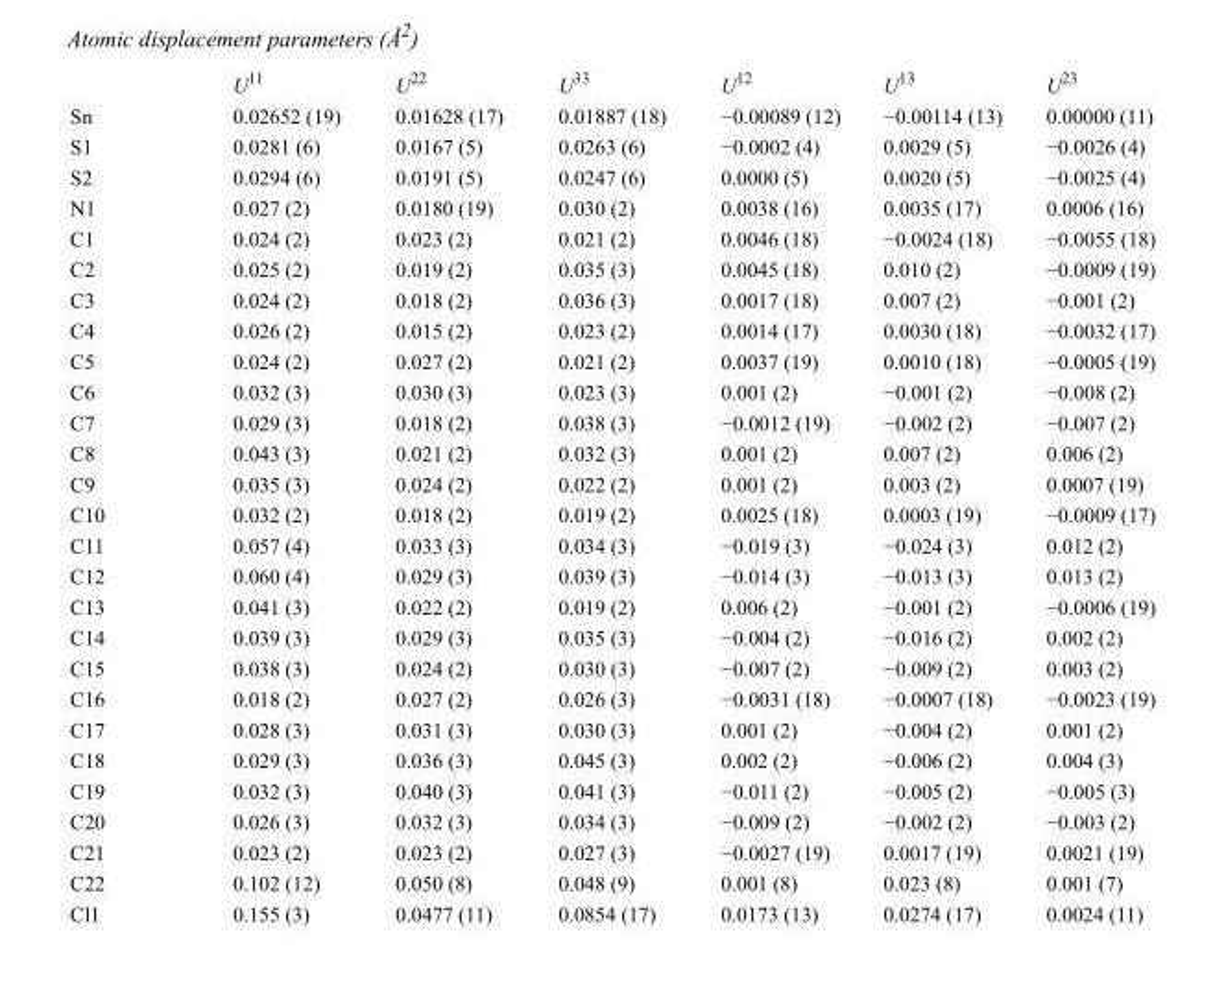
<table><thead><tr><td></td><td>U<sup>11</sup></td><td>U<sup>22</sup></td><td>U<sup>33</sup></td><td>U<sup>12</sup></td><td>U<sup>13</sup></td><td>U<sup>23</sup></td></tr></thead><tbody><tr><td>Sn</td><td>0.02652 (19)</td><td>0.01628 (17)</td><td>0.01887 (18)</td><td>−0.00089 (12)</td><td>−0.00114 (13)</td><td>0.00000 (11)</td></tr><tr><td>S1</td><td>0.0281 (6)</td><td>0.0167 (5)</td><td>0.0263 (6)</td><td>−0.0002 (4)</td><td>0.0029 (5)</td><td>−0.0026 (4)</td></tr><tr><td>S2</td><td>0.0294 (6)</td><td>0.0191 (5)</td><td>0.0247 (6)</td><td>0.0000 (5)</td><td>0.0020 (5)</td><td>−0.0025 (4)</td></tr><tr><td>N1</td><td>0.027 (2)</td><td>0.0180 (19)</td><td>0.030 (2)</td><td>0.0038 (16)</td><td>0.0035 (17)</td><td>0.0006 (16)</td></tr><tr><td>C1</td><td>0.024 (2)</td><td>0.023 (2)</td><td>0.021 (2)</td><td>0.0046 (18)</td><td>−0.0024 (18)</td><td>−0.0055 (18)</td></tr><tr><td>C2</td><td>0.025 (2)</td><td>0.019 (2)</td><td>0.035 (3)</td><td>0.0045 (18)</td><td>0.010 (2)</td><td>−0.0009 (19)</td></tr><tr><td>C3</td><td>0.024 (2)</td><td>0.018 (2)</td><td>0.036 (3)</td><td>0.0017 (18)</td><td>0.007 (2)</td><td>−0.001 (2)</td></tr><tr><td>C4</td><td>0.026 (2)</td><td>0.015 (2)</td><td>0.023 (2)</td><td>0.0014 (17)</td><td>0.0030 (18)</td><td>−0.0032 (17)</td></tr><tr><td>C5</td><td>0.024 (2)</td><td>0.027 (2)</td><td>0.021 (2)</td><td>0.0037 (19)</td><td>0.0010 (18)</td><td>−0.0005 (19)</td></tr><tr><td>C6</td><td>0.032 (3)</td><td>0.030 (3)</td><td>0.023 (3)</td><td>0.001 (2)</td><td>−0.001 (2)</td><td>−0.008 (2)</td></tr><tr><td>C7</td><td>0.029 (3)</td><td>0.018 (2)</td><td>0.038 (3)</td><td>−0.0012 (19)</td><td>−0.002 (2)</td><td>−0.007 (2)</td></tr><tr><td>C8</td><td>0.043 (3)</td><td>0.021 (2)</td><td>0.032 (3)</td><td>0.001 (2)</td><td>0.007 (2)</td><td>0.006 (2)</td></tr><tr><td>C9</td><td>0.035 (3)</td><td>0.024 (2)</td><td>0.022 (2)</td><td>0.001 (2)</td><td>0.003 (2)</td><td>0.0007 (19)</td></tr><tr><td>C10</td><td>0.032 (2)</td><td>0.018 (2)</td><td>0.019 (2)</td><td>0.0025 (18)</td><td>0.0003 (19)</td><td>−0.0009 (17)</td></tr><tr><td>C11</td><td>0.057 (4)</td><td>0.033 (3)</td><td>0.034 (3)</td><td>−0.019 (3)</td><td>−0.024 (3)</td><td>0.012 (2)</td></tr><tr><td>C12</td><td>0.060 (4)</td><td>0.029 (3)</td><td>0.039 (3)</td><td>−0.014 (3)</td><td>−0.013 (3)</td><td>0.013 (2)</td></tr><tr><td>C13</td><td>0.041 (3)</td><td>0.022 (2)</td><td>0.019 (2)</td><td>0.006 (2)</td><td>−0.001 (2)</td><td>−0.0006 (19)</td></tr><tr><td>C14</td><td>0.039 (3)</td><td>0.029 (3)</td><td>0.035 (3)</td><td>−0.004 (2)</td><td>−0.016 (2)</td><td>0.002 (2)</td></tr><tr><td>C15</td><td>0.038 (3)</td><td>0.024 (2)</td><td>0.030 (3)</td><td>−0.007 (2)</td><td>−0.009 (2)</td><td>0.003 (2)</td></tr><tr><td>C16</td><td>0.018 (2)</td><td>0.027 (2)</td><td>0.026 (3)</td><td>−0.0031 (18)</td><td>−0.0007 (18)</td><td>−0.0023 (19)</td></tr><tr><td>C17</td><td>0.028 (3)</td><td>0.031 (3)</td><td>0.030 (3)</td><td>0.001 (2)</td><td>−0.004 (2)</td><td>0.001 (2)</td></tr><tr><td>C18</td><td>0.029 (3)</td><td>0.036 (3)</td><td>0.045 (3)</td><td>0.002 (2)</td><td>−0.006 (2)</td><td>0.004 (3)</td></tr><tr><td>C19</td><td>0.032 (3)</td><td>0.040 (3)</td><td>0.041 (3)</td><td>−0.011 (2)</td><td>−0.005 (2)</td><td>−0.005 (3)</td></tr><tr><td>C20</td><td>0.026 (3)</td><td>0.032 (3)</td><td>0.034 (3)</td><td>−0.009 (2)</td><td>−0.002 (2)</td><td>−0.003 (2)</td></tr><tr><td>C21</td><td>0.023 (2)</td><td>0.023 (2)</td><td>0.027 (3)</td><td>−0.0027 (19)</td><td>0.0017 (19)</td><td>0.0021 (19)</td></tr><tr><td>C22</td><td>0.102 (12)</td><td>0.050 (8)</td><td>0.048 (9)</td><td>0.001 (8)</td><td>0.023 (8)</td><td>0.001 (7)</td></tr><tr><td>Cl1</td><td>0.155 (3)</td><td>0.0477 (11)</td><td>0.0854 (17)</td><td>0.0173 (13)</td><td>0.0274 (17)</td><td>0.0024 (11)</td></tr></tbody></table>